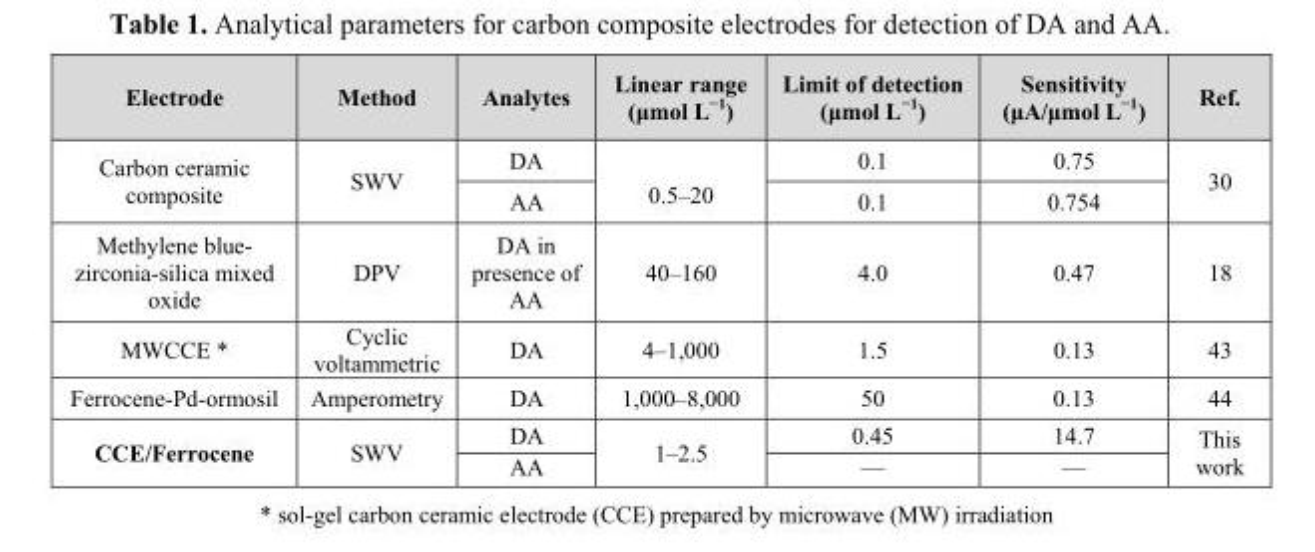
<table><thead><tr><td>Electrode</td><td>Method</td><td>Analytes</td><td>Linear range (μmol L<sup>−1</sup>)</td><td>Limit of detection (μmol L<sup>−1</sup>)</td><td>Sensitivity (μA/μmol L<sup>−1</sup>)</td><td>Ref.</td></tr></thead><tbody><tr><td rowspan="2">Carbon ceramic composite</td><td rowspan="2">SWV</td><td>DA</td><td rowspan="2">0.5–20</td><td>0.1</td><td>0.75</td><td rowspan="2">30</td></tr><tr><td>AA</td><td>0.1</td><td>0.754</td></tr><tr><td>Methylene blue- zirconia-silica mixed oxide</td><td>DPV</td><td>DA in presence of AA</td><td>40–160</td><td>4.0</td><td>0.47</td><td>18</td></tr><tr><td>MWCCE *</td><td>Cyclic voltammetric</td><td>DA</td><td>4–1,000</td><td>1.5</td><td>0.13</td><td>43</td></tr><tr><td>Ferrocene-Pd-ormosil</td><td>Amperometry</td><td>DA</td><td>1,000–8,000</td><td>50</td><td>0.13</td><td>44</td></tr><tr><td rowspan="2">CCE/Ferrocene</td><td rowspan="2">SWV</td><td>DA</td><td rowspan="2">1–2.5</td><td>0.45</td><td>14.7</td><td rowspan="2">This work</td></tr><tr><td>AA</td><td>—</td><td>—</td></tr></tbody></table>